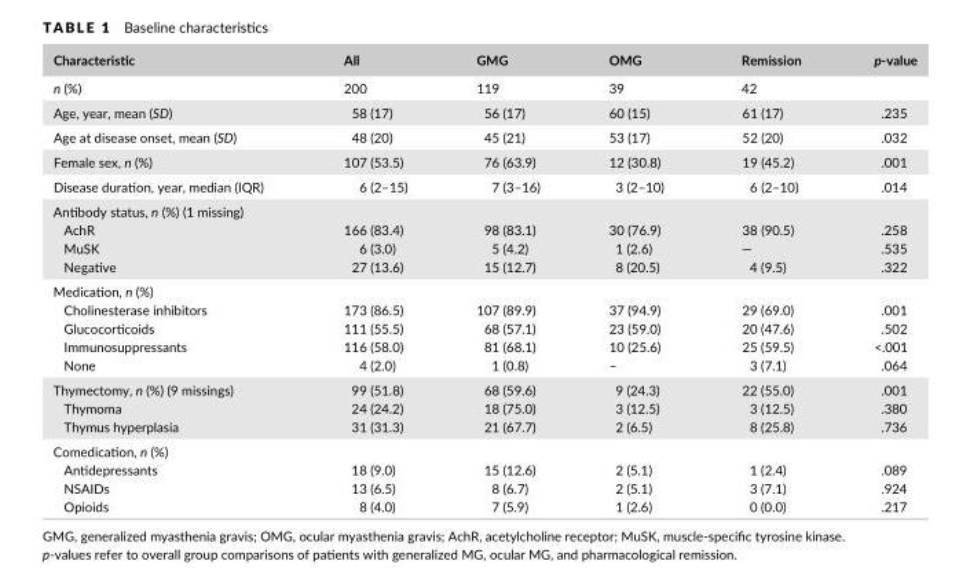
<table><thead><tr><td>Characteristic</td><td>All</td><td>GMG</td><td>OMG</td><td>Remission</td><td>p- value</td></tr></thead><tbody><tr><td>n (%)</td><td>200</td><td>119</td><td>39</td><td>42</td><td></td></tr><tr><td>Age, year, mean (SD)</td><td>58 (17)</td><td>56 (17)</td><td>60 (15)</td><td>61 (17)</td><td>.235</td></tr><tr><td>Age at disease onset, mean (SD)</td><td>48 (20)</td><td>45 (21)</td><td>53 (17)</td><td>52 (20)</td><td>.032</td></tr><tr><td>Female sex, n (%)</td><td>107 (53.5)</td><td>76 (63.9)</td><td>12 (30.8)</td><td>19 (45.2)</td><td>.001</td></tr><tr><td>Disease duration, year, median (IQR)</td><td>6 (2–15)</td><td>7 (3–16)</td><td>3 (2–10)</td><td>6 (2–10)</td><td>.014</td></tr><tr><td colspan="6">Antibody status, n (%) (1 missing)</td></tr><tr><td>AchR</td><td>166 (83.4)</td><td>98 (83.1)</td><td>30 (76.9)</td><td>38 (90.5)</td><td>.258</td></tr><tr><td>MuSK</td><td>6 (3.0)</td><td>5 (4.2)</td><td>1 (2.6)</td><td>—</td><td>.535</td></tr><tr><td>Negative</td><td>27 (13.6)</td><td>15 (12.7)</td><td>8 (20.5)</td><td>4 (9.5)</td><td>.322</td></tr><tr><td colspan="6">Medication, n (%)</td></tr><tr><td>Cholinesterase inhibitors</td><td>173 (86.5)</td><td>107 (89.9)</td><td>37 (94.9)</td><td>29 (69.0)</td><td>.001</td></tr><tr><td>Glucocorticoids</td><td>111 (55.5)</td><td>68 (57.1)</td><td>23 (59.0)</td><td>20 (47.6)</td><td>.502</td></tr><tr><td>Immunosuppressants</td><td>116 (58.0)</td><td>81 (68.1)</td><td>10 (25.6)</td><td>25 (59.5)</td><td>&lt;.001</td></tr><tr><td>None</td><td>4 (2.0)</td><td>1 (0.8)</td><td>–</td><td>3 (7.1)</td><td>.064</td></tr><tr><td>Thymectomy, n (%) (9 missings)</td><td>99 (51.8)</td><td>68 (59.6)</td><td>9 (24.3)</td><td>22 (55.0)</td><td>.001</td></tr><tr><td>Thymoma</td><td>24 (24.2)</td><td>18 (75.0)</td><td>3 (12.5)</td><td>3 (12.5)</td><td>.380</td></tr><tr><td>Thymus hyperplasia</td><td>31 (31.3)</td><td>21 (67.7)</td><td>2 (6.5)</td><td>8 (25.8)</td><td>.736</td></tr><tr><td colspan="6">Comedication, n (%)</td></tr><tr><td>Antidepressants</td><td>18 (9.0)</td><td>15 (12.6)</td><td>2 (5.1)</td><td>1 (2.4)</td><td>.089</td></tr><tr><td>NSAIDs</td><td>13 (6.5)</td><td>8 (6.7)</td><td>2 (5.1)</td><td>3 (7.1)</td><td>.924</td></tr><tr><td>Opioids</td><td>8 (4.0)</td><td>7 (5.9)</td><td>1 (2.6)</td><td>0 (0.0)</td><td>.217</td></tr></tbody></table>